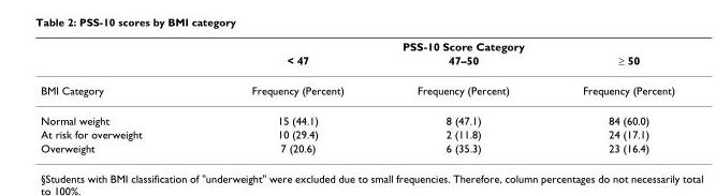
<table><thead><tr><td rowspan="2"></td><td colspan="3">PSS-10 Score Category</td></tr><tr><td>&lt; 47</td><td>47–50</td><td>≥ 50</td></tr></thead><tbody><tr><td>BMI Category</td><td>Frequency (Percent)</td><td>Frequency (Percent)</td><td>Frequency (Percent)</td></tr><tr><td>Normal weight</td><td>15 (44.1)</td><td>8 (47.1)</td><td>84 (60.0)</td></tr><tr><td>At risk for overweight</td><td>10 (29.4)</td><td>2 (11.8)</td><td>24 (17.1)</td></tr><tr><td>Overweight</td><td>7 (20.6)</td><td>6 (35.3)</td><td>23 (16.4)</td></tr></tbody></table>